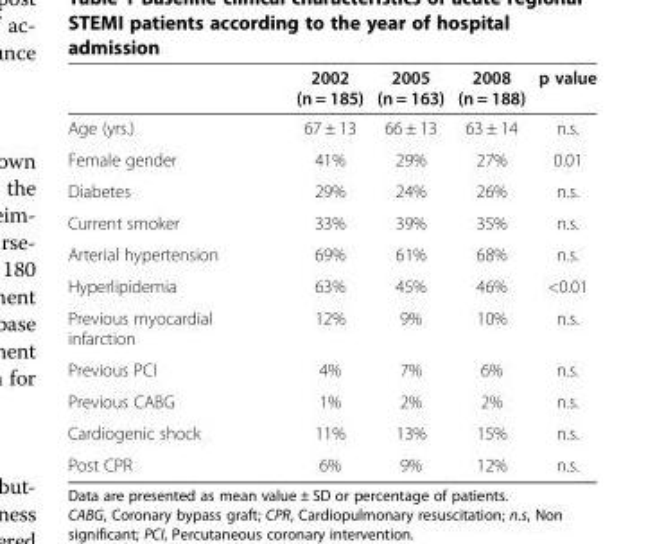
<table><thead><tr><td></td><td>2002 (n = 185)</td><td>2005 (n = 163)</td><td>2008 (n = 188)</td><td>p value</td></tr></thead><tbody><tr><td>Age (yrs.)</td><td>67 ± 13</td><td>66 ± 13</td><td>63 ± 14</td><td>n.s.</td></tr><tr><td>Female gender</td><td>41%</td><td>29%</td><td>27%</td><td>0.01</td></tr><tr><td>Diabetes</td><td>29%</td><td>24%</td><td>26%</td><td>n.s.</td></tr><tr><td>Current smoker</td><td>33%</td><td>39%</td><td>35%</td><td>n.s.</td></tr><tr><td>Arterial hypertension</td><td>69%</td><td>61%</td><td>68%</td><td>n.s.</td></tr><tr><td>Hyperlipidemia</td><td>63%</td><td>45%</td><td>46%</td><td>&lt;0.01</td></tr><tr><td>Previous myocardial infarction</td><td>12%</td><td>9%</td><td>10%</td><td>n.s.</td></tr><tr><td>Previous PCI</td><td>4%</td><td>7%</td><td>6%</td><td>n.s.</td></tr><tr><td>Previous CABG</td><td>1%</td><td>2%</td><td>2%</td><td>n.s.</td></tr><tr><td>Cardiogenic shock</td><td>11%</td><td>13%</td><td>15%</td><td>n.s.</td></tr><tr><td>Post CPR</td><td>6%</td><td>9%</td><td>12%</td><td>n.s.</td></tr></tbody></table>